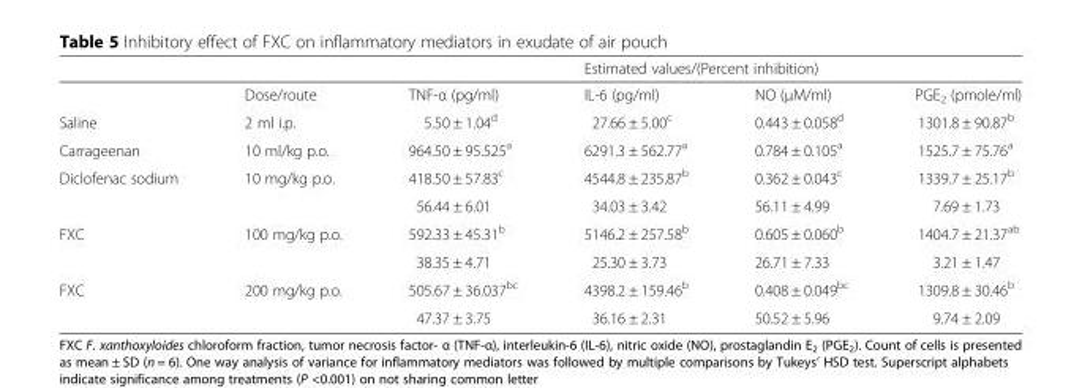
<table><thead><tr><td rowspan="2"></td><td rowspan="2">Dose/route</td><td rowspan="2">TNF-α (pg/ml)</td><td colspan="3">Estimated values/(Percent inhibition)</td></tr><tr><td>IL-6 (pg/ml)</td><td>NO (μM/ml)</td><td>PGE<sub>2</sub> (pmole/ml)</td></tr></thead><tbody><tr><td>Saline</td><td>2 ml i.p.</td><td>5.50 ± 1.04<sup>d</sup></td><td>27.66 ± 5.00<sup>c</sup></td><td>0.443 ± 0.058<sup>d</sup></td><td>1301.8 ± 90.87<sup>b</sup></td></tr><tr><td>Carrageenan</td><td>10 ml/kg p.o.</td><td>964.50 ± 95.525<sup>a</sup></td><td>6291.3 ± 562.77<sup>a</sup></td><td>0.784 ± 0.105<sup>a</sup></td><td>1525.7 ± 75.76<sup>a</sup></td></tr><tr><td rowspan="2">Diclofenac sodium</td><td>10 mg/kg p.o.</td><td>418.50 ± 57.83<sup>c</sup></td><td>4544.8 ± 235.87<sup>b</sup></td><td>0.362 ± 0.043<sup>c</sup></td><td>1339.7 ± 25.17<sup>b</sup></td></tr><tr><td></td><td>56.44 ± 6.01</td><td>34.03 ± 3.42</td><td>56.11 ± 4.99</td><td>7.69 ± 1.73</td></tr><tr><td rowspan="2">FXC</td><td>100 mg/kg p.o.</td><td>592.33 ± 45.31<sup>b</sup></td><td>5146.2 ± 257.58<sup>b</sup></td><td>0.605 ± 0.060<sup>b</sup></td><td>1404.7 ± 21.37<sup>ab</sup></td></tr><tr><td></td><td>38.35 ± 4.71</td><td>25.30 ± 3.73</td><td>26.71 ± 7.33</td><td>3.21 ± 1.47</td></tr><tr><td rowspan="2">FXC</td><td>200 mg/kg p.o.</td><td>505.67 ± 36.037<sup>bc</sup></td><td>4398.2 ± 159.46<sup>b</sup></td><td>0.408 ± 0.049<sup>bc</sup></td><td>1309.8 ± 30.46<sup>b</sup></td></tr><tr><td></td><td>47.37 ± 3.75</td><td>36.16 ± 2.31</td><td>50.52 ± 5.96</td><td>9.74 ± 2.09</td></tr></tbody></table>